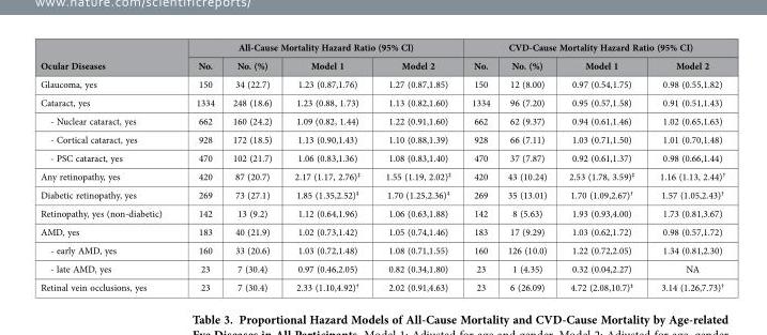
<table><thead><tr><td rowspan="2">Ocular Diseases</td><td colspan="4">All-Cause Mortality Hazard Ratio (95% Cl)</td><td colspan="4">CVD-Cause Mortality Hazard Ratio (95% CI)</td></tr><tr><td>No.</td><td>No. (%)</td><td>Model 1</td><td>Model 2</td><td>No.</td><td>No. (%)</td><td>Model 1</td><td>Model 2</td></tr></thead><tbody><tr><td>Glaucoma, yes</td><td>150</td><td>34 (22.7)</td><td>1.23 (0.87,1.76)</td><td>1.27 (0.87,1.85)</td><td>150</td><td>12 (8.00)</td><td>0.97 (0.54,1.75)</td><td>0.98 (0.55,1.82)</td></tr><tr><td>Cataract, yes</td><td>1334</td><td>248 (18.6)</td><td>1.23 (0.88, 1.73)</td><td>1.13 (0.82,1.60)</td><td>1334</td><td>96 (7.20)</td><td>0.95 (0.57,1.58)</td><td>0.91 (0.51,1.43)</td></tr><tr><td>- Nuclear cataract, yes</td><td>662</td><td>160 (24.2)</td><td>1.09 (0.82, 1.44)</td><td>1.22 (0.91,1.60)</td><td>662</td><td>62 (9.37)</td><td>0.94 (0.61,1.46)</td><td>1.02 (0.65,1.63)</td></tr><tr><td>- Cortical cataract, yes</td><td>928</td><td>172 (18.5)</td><td>1.13 (0.90,1.43)</td><td>1.10 (0.88,1.39)</td><td>928</td><td>66 (7.11)</td><td>1.03 (0.71,1.50)</td><td>1.01 (0.70,1.48)</td></tr><tr><td>- PSC cataract, yes</td><td>470</td><td>102 (21.7)</td><td>1.06 (0.83,1.36)</td><td>1.08 (0.83,1.40)</td><td>470</td><td>37 (7.87)</td><td>0.92 (0.61,1.37)</td><td>0.98 (0.66,1.44)</td></tr><tr><td>Any retinopathy, yes</td><td>420</td><td>87 (20.7)</td><td>2.17 (1.17, 2.76)‡</td><td>1.55 (1.19, 2.02)‡</td><td>420</td><td>43 (10.24)</td><td>2.53 (1.78, 3.59)‡</td><td>1.16 (1.13, 2.44)†</td></tr><tr><td>Diabetic retinopathy, yes</td><td>269</td><td>73 (27.1)</td><td>1.85 (1.35,2.52)‡</td><td>1.70 (1.25,2.36)‡</td><td>269</td><td>35 (13.01)</td><td>1.70 (1.09,2.67)†</td><td>1.57 (1.05,2.43)†</td></tr><tr><td>Retinopathy, yes (non-diabetic)</td><td>142</td><td>13 (9.2)</td><td>1.12 (0.64,1.96)</td><td>1.06 (0.63,1.88)</td><td>142</td><td>8 (5.63)</td><td>1.93 (0.93,4.00)</td><td>1.73 (0.81,3.67)</td></tr><tr><td>AMD, yes</td><td>183</td><td>40 (21.9)</td><td>1.02 (0.73,1.42)</td><td>1.05 (0.74,1.46)</td><td>183</td><td>17 (9.29)</td><td>1.03 (0.62,1.72)</td><td>0.98 (0.57,1.72)</td></tr><tr><td>- early AMD, yes</td><td>160</td><td>33 (20.6)</td><td>1.03 (0.72,1.48)</td><td>1.08 (0.71,1.55)</td><td>160</td><td>126 (10.0)</td><td>1.22 (0.72,2.05)</td><td>1.34 (0.81,2.30)</td></tr><tr><td>- late AMD, yes</td><td>23</td><td>7 (30.4)</td><td>0.97 (0.46,2.05)</td><td>0.82 (0.34,1.80)</td><td>23</td><td>1 (4.35)</td><td>0.32 (0.04,2.27)</td><td>NA</td></tr><tr><td>Retinal vein occlusions, yes</td><td>23</td><td>7 (30.4)</td><td>2.33 (1.10,4.92)†</td><td>2.02 (0.91,4.63)</td><td>23</td><td>6 (26.09)</td><td>4.72 (2.08,10.7)‡</td><td>3.14 (1.26,7.73)†</td></tr></tbody></table>